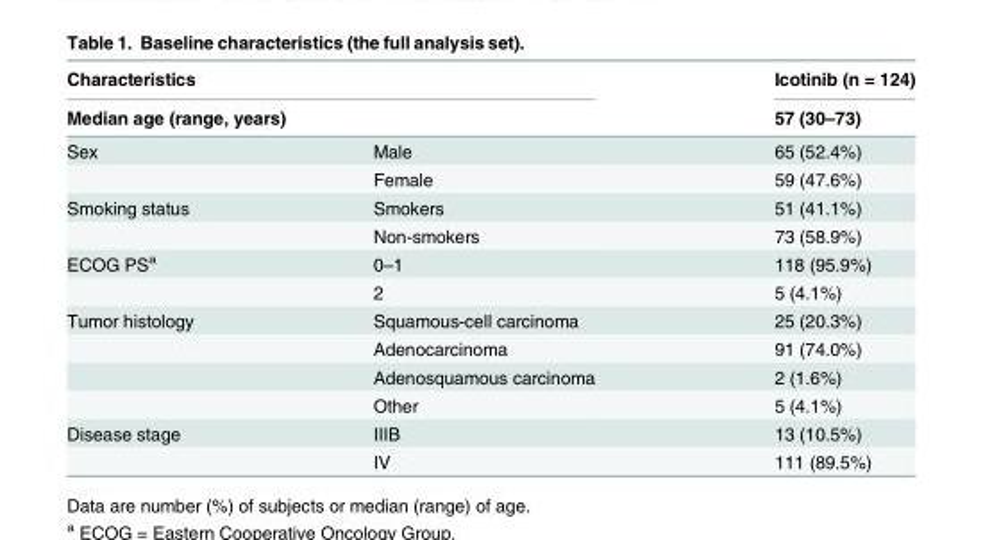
<table><thead><tr><td rowspan="2" colspan="2">Characteristics Median age (range, years)</td><td rowspan="3">Icotinib (n = 124) 57 (30–73) 65 (52.4%)</td></tr><tr></tr><tr><td>Sex</td><td>Male</td></tr></thead><tbody><tr><td></td><td>Female</td><td>59 (47.6%)</td></tr><tr><td rowspan="2">Smoking status</td><td>Smokers</td><td>51 (41.1%)</td></tr><tr><td>Non-smokers</td><td>73 (58.9%)</td></tr><tr><td rowspan="2">ECOG PS<sup>a</sup></td><td>0–1</td><td>118 (95.9%)</td></tr><tr><td>2</td><td>5 (4.1%)</td></tr><tr><td rowspan="4">Tumor histology</td><td>Squamous-cell carcinoma</td><td>25 (20.3%)</td></tr><tr><td>Adenocarcinoma</td><td>91 (74.0%)</td></tr><tr><td>Adenosquamous carcinoma</td><td>2 (1.6%)</td></tr><tr><td>Other</td><td>5 (4.1%)</td></tr><tr><td rowspan="2">Disease stage</td><td>IIIB</td><td>13 (10.5%)</td></tr><tr><td>IV</td><td>111 (89.5%)</td></tr></tbody></table>